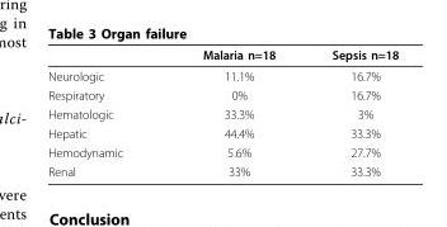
<table><thead><tr><td></td><td>Malaria n=18</td><td>Sepsis n=18</td></tr></thead><tbody><tr><td>Neurologic</td><td>11.1%</td><td>16.7%</td></tr><tr><td>Respiratory</td><td>0%</td><td>16.7%</td></tr><tr><td>Hematologic</td><td>33.3%</td><td>3%</td></tr><tr><td>Hepatic</td><td>44.4%</td><td>33.3%</td></tr><tr><td>Hemodynamic</td><td>5.6%</td><td>27.7%</td></tr><tr><td>Renal</td><td>33%</td><td>33.3%</td></tr></tbody></table>